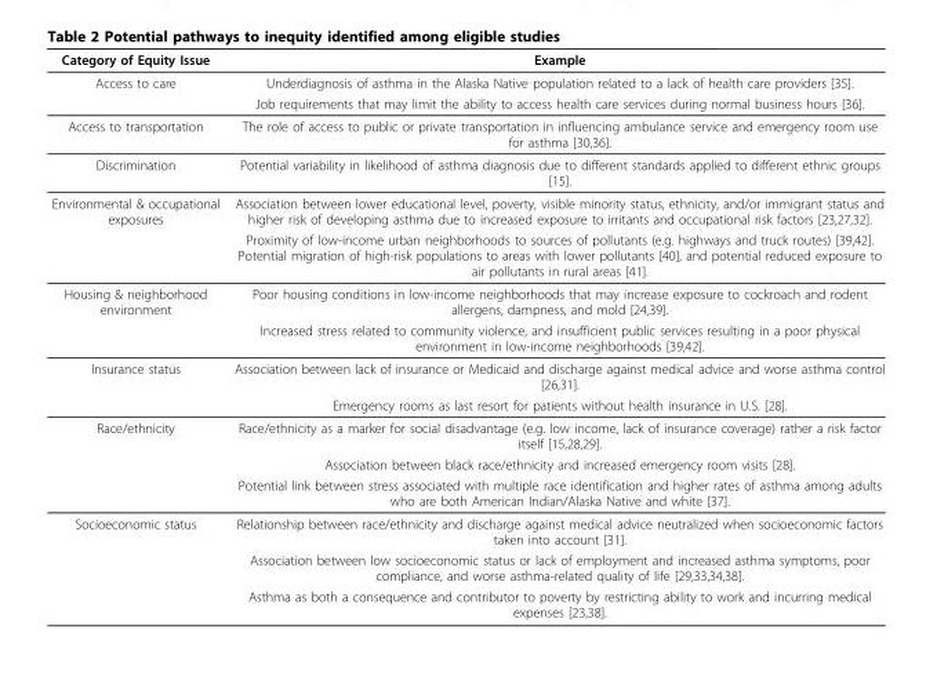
<table><thead><tr><td>Category of Equity Issue</td><td>Example</td></tr></thead><tbody><tr><td rowspan="2">Access to care</td><td>Underdiagnosis of asthma in the Alaska Native population related to a lack of health care providers [35].</td></tr><tr><td>Job requirements that may limit the ability to access health care services during normal business hours [36].</td></tr><tr><td>Access to transportation</td><td>The role of access to public or private transportation in influencing ambulance service and emergency room use for asthma [30,36].</td></tr><tr><td>Discrimination</td><td>Potential variability in likelihood of asthma diagnosis due to different standards applied to different ethnic groups [15].</td></tr><tr><td rowspan="2">Environmental &amp; occupational exposures</td><td>Association between lower educational level, poverty, visible minority status, ethnicity, and/or immigrant status and higher risk of developing asthma due to increased exposure to irritants and occupational risk factors [23,27,32].</td></tr><tr><td>Proximity of low-income urban neighborhoods to sources of pollutants (e.g. highways and truck routes) [39,42]. Potential migration of high-risk populations to areas with lower pollutants [40], and potential reduced exposure to air pollutants in rural areas [41].</td></tr><tr><td rowspan="2">Housing &amp; neighborhood environment</td><td>Poor housing conditions in low-income neighborhoods that may increase exposure to cockroach and rodent allergens, dampness, and mold [24,39].</td></tr><tr><td>Increased stress related to community violence, and insufficient public services resulting in a poor physical environment in low-income neighborhoods [39,42].</td></tr><tr><td rowspan="2">Insurance status</td><td>Association between lack of insurance or Medicaid and discharge against medical advice and worse asthma control [26,31].</td></tr><tr><td>Emergency rooms as last resort for patients without health insurance in U.S. [28].</td></tr><tr><td rowspan="3">Race/ethnicity</td><td>Race/ethnicity as a marker for social disadvantage (e.g. low income, lack of insurance coverage) rather a risk factor itself [15,28,29].</td></tr><tr><td>Association between black race/ethnicity and increased emergency room visits [28].</td></tr><tr><td>Potential link between stress associated with multiple race identification and higher rates of asthma among adults who are both American Indian/Alaska Native and white [37].</td></tr><tr><td rowspan="3">Socioeconomic status</td><td>Relationship between race/ethnicity and discharge against medical advice neutralized when socioeconomic factors taken into account [31].</td></tr><tr><td>Association between low socioeconomic status or lack of employment and increased asthma symptoms, poor compliance, and worse asthma-related quality of life [29,33,34,38].</td></tr><tr><td>Asthma as both a consequence and contributor to poverty by restricting ability to work and incurring medical expenses [23,38].</td></tr></tbody></table>